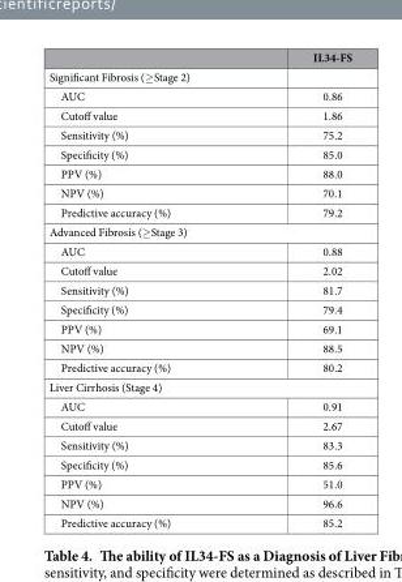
<table><thead><tr><td></td><td>IL34-FS</td></tr></thead><tbody><tr><td colspan="2">Significant Fibrosis (≥Stage 2)</td></tr><tr><td>AUC</td><td>0.86</td></tr><tr><td>Cutoff value</td><td>1.86</td></tr><tr><td>Sensitivity (%)</td><td>75.2</td></tr><tr><td>Specificity (%)</td><td>85.0</td></tr><tr><td>PPV (%)</td><td>88.0</td></tr><tr><td>NPV (%)</td><td>70.1</td></tr><tr><td>Predictive accuracy (%)</td><td>79.2</td></tr><tr><td colspan="2">Advanced Fibrosis (≥ Stage 3)</td></tr><tr><td>AUC</td><td>0.88</td></tr><tr><td>Cutoff value</td><td>2.02</td></tr><tr><td>Sensitivity (%)</td><td>81.7</td></tr><tr><td>Specificity (%)</td><td>79.4</td></tr><tr><td>PPV (%)</td><td>69.1</td></tr><tr><td>NPV (%)</td><td>88.5</td></tr><tr><td>Predictive accuracy (%)</td><td>80.2</td></tr><tr><td colspan="2">Liver Cirrhosis (Stage 4)</td></tr><tr><td>AUC</td><td>0.91</td></tr><tr><td>Cutoff value</td><td>2.67</td></tr><tr><td>Sensitivity (%)</td><td>83.3</td></tr><tr><td>Specificity (%)</td><td>85.6</td></tr><tr><td>PPV (%)</td><td>51.0</td></tr><tr><td>NPV (%)</td><td>96.6</td></tr><tr><td>Predictive accuracy (%)</td><td>85.2</td></tr></tbody></table>